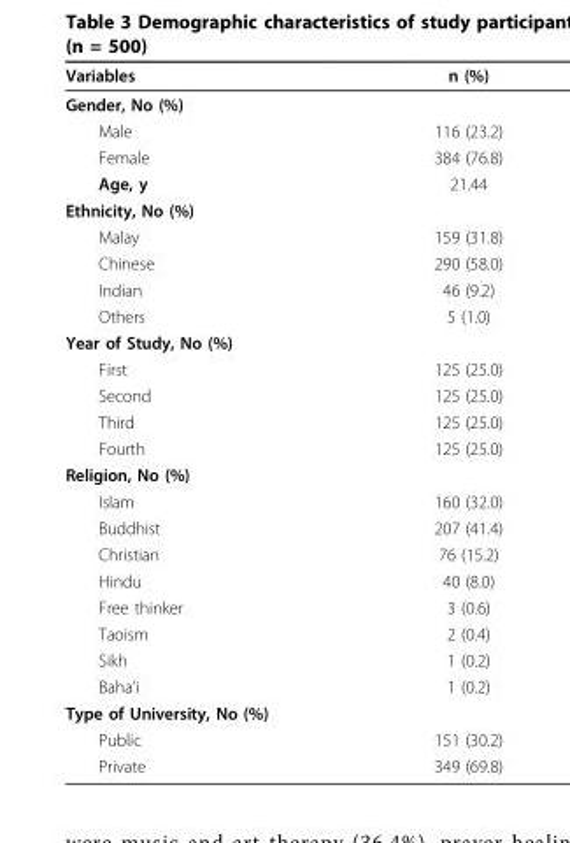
<table><thead><tr><td>Variables</td><td>n (%)</td></tr></thead><tbody><tr><td colspan="2">Gender, No (%)</td></tr><tr><td>Male</td><td>116 (23.2)</td></tr><tr><td>Female</td><td>384 (76.8)</td></tr><tr><td>Age, y</td><td>21.44</td></tr><tr><td colspan="2">Ethnicity, No (%)</td></tr><tr><td>Malay</td><td>159 (31.8)</td></tr><tr><td>Chinese</td><td>290 (58.0)</td></tr><tr><td>Indian</td><td>46 (9.2)</td></tr><tr><td>Others</td><td>5 (1.0)</td></tr><tr><td colspan="2">Year of Study, No (%)</td></tr><tr><td>First</td><td>125 (25.0)</td></tr><tr><td>Second</td><td>125 (25.0)</td></tr><tr><td>Third</td><td>125 (25.0)</td></tr><tr><td>Fourth</td><td>125 (25.0)</td></tr><tr><td colspan="2">Religion, No (%)</td></tr><tr><td>Islam</td><td>160 (32.0)</td></tr><tr><td>Buddhist</td><td>207 (41.4)</td></tr><tr><td>Christian</td><td>76 (15.2)</td></tr><tr><td>Hindu</td><td>40 (8.0)</td></tr><tr><td>Free thinker</td><td>3 (0.6)</td></tr><tr><td>Taoism</td><td>2 (0.4)</td></tr><tr><td>Sikh</td><td>1 (0.2)</td></tr><tr><td>Baha’i</td><td>1 (0.2)</td></tr><tr><td colspan="2">Type of University, No (%)</td></tr><tr><td>Public</td><td>151 (30.2)</td></tr><tr><td>Private</td><td>349 (69.8)</td></tr></tbody></table>